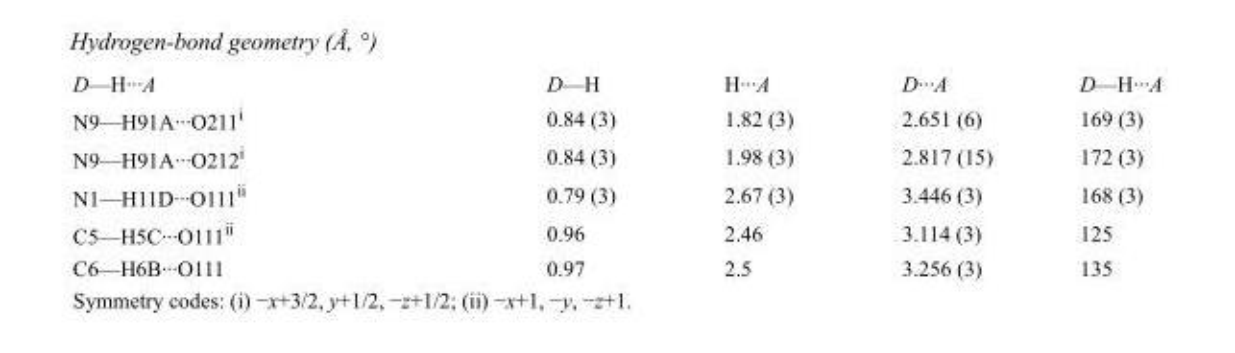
<table><tbody><tr><td>D—H···A</td><td>D—H</td><td>H···A</td><td>D···A</td><td>D—H···A</td></tr><tr><td>N9—H91A···O211<sup>i</sup></td><td>0.84 (3)</td><td>1.82 (3)</td><td>2.651 (6)</td><td>169 (3)</td></tr><tr><td>N9—H91A···O212<sup>i</sup></td><td>0.84 (3)</td><td>1.98 (3)</td><td>2.817 (15)</td><td>172 (3)</td></tr><tr><td>N1—H11D···O111<sup>ii</sup></td><td>0.79 (3)</td><td>2.67 (3)</td><td>3.446 (3)</td><td>168 (3)</td></tr><tr><td>C5—H5C···O111<sup>ii</sup></td><td>0.96</td><td>2.46</td><td>3.114 (3)</td><td>125</td></tr><tr><td>C6—H6B···O111</td><td>0.97</td><td>2.5</td><td>3.256 (3)</td><td>135</td></tr></tbody></table>